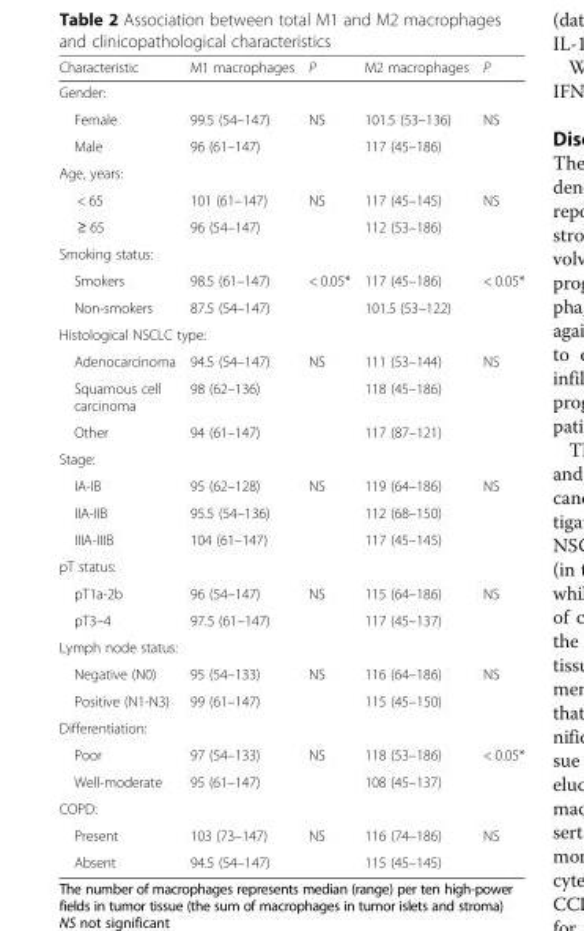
<table><thead><tr><td>Characteristic</td><td>M1 macrophages</td><td>P</td><td>M2 macrophages</td><td>P</td></tr></thead><tbody><tr><td colspan="5">Gender:</td></tr><tr><td>Female</td><td>99.5 (54–147)</td><td rowspan="2">NS</td><td>101.5 (53–136)</td><td rowspan="2">NS</td></tr><tr><td>Male</td><td>96 (61–147)</td><td>117 (45–186)</td></tr><tr><td colspan="5">Age, years:</td></tr><tr><td>&lt; 65</td><td>101 (61–147)</td><td rowspan="2">NS</td><td>117 (45–145)</td><td rowspan="2">NS</td></tr><tr><td>≥ 65</td><td>96 (54–147)</td><td>112 (53–186)</td></tr><tr><td colspan="5">Smoking status:</td></tr><tr><td>Smokers</td><td>98.5 (61–147)</td><td rowspan="2">&lt; 0.05*</td><td>117 (45–186)</td><td rowspan="2">&lt; 0.05*</td></tr><tr><td>Non-smokers</td><td>87.5 (54–147)</td><td>101.5 (53–122)</td></tr><tr><td colspan="5">Histological NSCLC type:</td></tr><tr><td>Adenocarcinoma</td><td>94.5 (54–147)</td><td rowspan="3">NS</td><td>111 (53–144)</td><td rowspan="3">NS</td></tr><tr><td>Squamous cell carcinoma</td><td>98 (62–136)</td><td>118 (45–186)</td></tr><tr><td>Other</td><td>94 (61–147)</td><td>117 (87–121)</td></tr><tr><td colspan="5">Stage:</td></tr><tr><td>IA-IB</td><td>95 (62–128)</td><td rowspan="3">NS</td><td>119 (64–186)</td><td rowspan="3">NS</td></tr><tr><td>IIA-IIB</td><td>95.5 (54–136)</td><td>112 (68–150)</td></tr><tr><td>IIIA-IIIB</td><td>104 (61–147)</td><td>117 (45–145)</td></tr><tr><td colspan="5">pT status:</td></tr><tr><td>pT1a-2b</td><td>96 (54–147)</td><td rowspan="2">NS</td><td>115 (64–186)</td><td rowspan="2">NS</td></tr><tr><td>pT3–4</td><td>97.5 (61–147)</td><td>117 (45–137)</td></tr><tr><td colspan="5">Lymph node status:</td></tr><tr><td>Negative (N0)</td><td>95 (54–133)</td><td rowspan="2">NS</td><td>116 (64–186)</td><td rowspan="2">NS</td></tr><tr><td>Positive (N1-N3)</td><td>99 (61–147)</td><td>115 (45–150)</td></tr><tr><td colspan="5">Differentiation:</td></tr><tr><td>Poor</td><td>97 (54–133)</td><td>NS</td><td>118 (53–186)</td><td>&lt; 0.05*</td></tr><tr><td>Well-moderate</td><td>95 (61–147)</td><td></td><td>108 (45–137)</td><td></td></tr><tr><td colspan="5">COPD:</td></tr><tr><td>Present</td><td>103 (73–147)</td><td>NS</td><td>116 (74–186)</td><td rowspan="2">NS</td></tr><tr><td>Absent</td><td>94.5 (54–147)</td><td></td><td>115 (45–145)</td></tr></tbody></table>